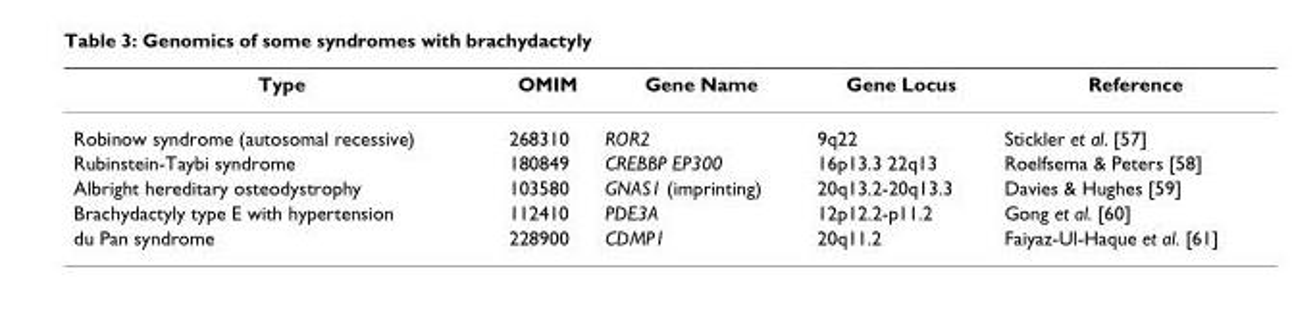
<table><thead><tr><td>Type</td><td>OMIM</td><td>Gene Name</td><td>Gene Locus</td><td>Reference</td></tr></thead><tbody><tr><td>Robinow syndrome (autosomal recessive)</td><td>268310</td><td>ROR2</td><td>9q22</td><td>Stickler et al. [57]</td></tr><tr><td>Rubinstein-Taybi syndrome</td><td>180849</td><td>CREBBP EP300</td><td>16p13.3 22q13</td><td>Roelfsema &amp; Peters [58]</td></tr><tr><td>Albright hereditary osteodystrophy</td><td>103580</td><td>GNAS1 (imprinting)</td><td>20q13.2-20q13.3</td><td>Davies &amp; Hughes [59]</td></tr><tr><td>Brachydactyly type E with hypertension</td><td>112410</td><td>PDE3A</td><td>12p12.2-p11.2</td><td>Gong et al. [60]</td></tr><tr><td>du Pan syndrome</td><td>228900</td><td>CDMP1</td><td>20q11.2</td><td>Faiyaz-Ul-Haque et al. [61]</td></tr></tbody></table>